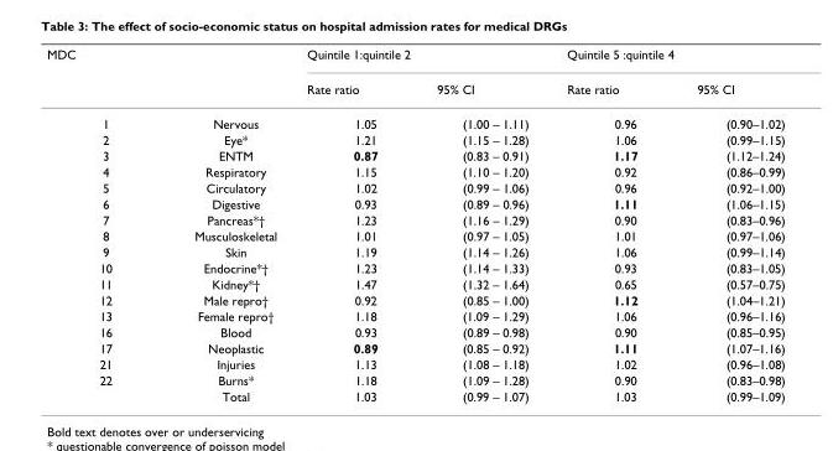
<table><thead><tr><td rowspan="2">MDC</td><td rowspan="2"></td><td colspan="2">Quintile 1:quintile 2</td><td colspan="2">Quintile 5 :quintile 4</td></tr><tr><td>Rate ratio</td><td>95% CI</td><td>Rate ratio</td><td>95% CI</td></tr></thead><tbody><tr><td>1</td><td>Nervous</td><td>1.05</td><td>(1.00 – 1.11)</td><td>0.96</td><td>(0.90–1.02)</td></tr><tr><td>2</td><td>Eye*</td><td>1.21</td><td>(1.15 – 1.28)</td><td>1.06</td><td>(0.99–1.15)</td></tr><tr><td>3</td><td>ENTM</td><td>0.87</td><td>(0.83 – 0.91)</td><td>1.17</td><td>(1.12–1.24)</td></tr><tr><td>4</td><td>Respiratory</td><td>1.15</td><td>(1.10 – 1.20)</td><td>0.92</td><td>(0.86–0.99)</td></tr><tr><td>5</td><td>Circulatory</td><td>1.02</td><td>(0.99 – 1.06)</td><td>0.96</td><td>(0.92–1.00)</td></tr><tr><td>6</td><td>Digestive</td><td>0.93</td><td>(0.89 – 0.96)</td><td>1.11</td><td>(1.06–1.15)</td></tr><tr><td>7</td><td>Pancreas*†</td><td>1.23</td><td>(1.16 – 1.29)</td><td>0.90</td><td>(0.83–0.96)</td></tr><tr><td>8</td><td>Musculoskeletal</td><td>1.01</td><td>(0.97 – 1.05)</td><td>1.01</td><td>(0.97–1.06)</td></tr><tr><td>9</td><td>Skin</td><td>1.19</td><td>(1.14 – 1.26)</td><td>1.06</td><td>(0.99–1.14)</td></tr><tr><td>10</td><td>Endocrine*†</td><td>1.23</td><td>(1.14 – 1.33)</td><td>0.93</td><td>(0.83–1.05)</td></tr><tr><td>11</td><td>Kidney*†</td><td>1.47</td><td>(1.32 – 1.64)</td><td>0.65</td><td>(0.57–0.75)</td></tr><tr><td>12</td><td>Male repro†</td><td>0.92</td><td>(0.85 – 1.00)</td><td>1.12</td><td>(1.04–1.21)</td></tr><tr><td>13</td><td>Female repro†</td><td>1.18</td><td>(1.09 – 1.29)</td><td>1.06</td><td>(0.96–1.16)</td></tr><tr><td>16</td><td>Blood</td><td>0.93</td><td>(0.89 – 0.98)</td><td>0.90</td><td>(0.85–0.95)</td></tr><tr><td>17</td><td>Neoplastic</td><td>0.89</td><td>(0.85 – 0.92)</td><td>1.11</td><td>(1.07–1.16)</td></tr><tr><td>21</td><td>Injuries</td><td>1.13</td><td>(1.08 – 1.18)</td><td>1.02</td><td>(0.96–1.08)</td></tr><tr><td rowspan="2">22</td><td>Burns*</td><td>1.18</td><td>(1.09 – 1.28)</td><td>0.90</td><td>(0.83–0.98)</td></tr><tr><td>Total</td><td>1.03</td><td>(0.99 – 1.07)</td><td>1.03</td><td>(0.99–1.09)</td></tr></tbody></table>